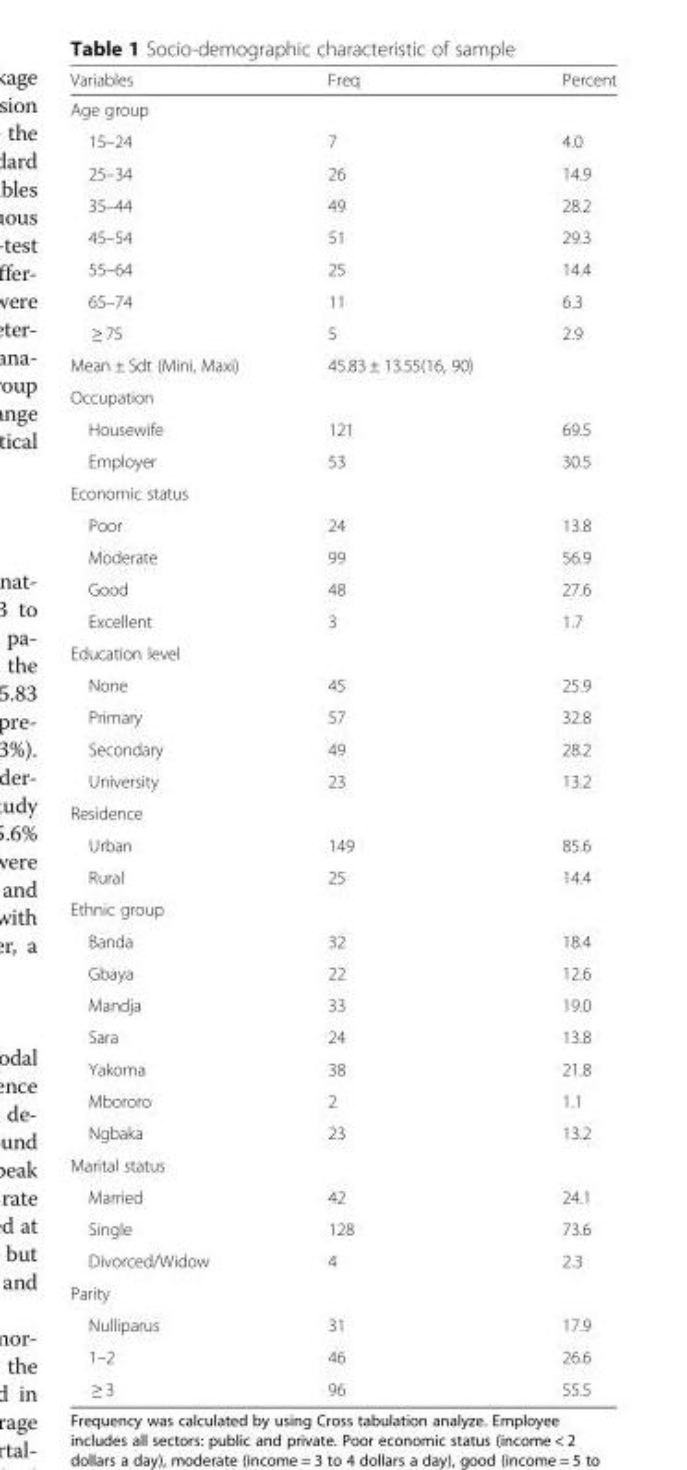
<table><thead><tr><td>Variables</td><td>Freq</td><td>Percent</td></tr></thead><tbody><tr><td colspan="3">Age group</td></tr><tr><td>15–24</td><td>7</td><td>4.0</td></tr><tr><td>25–34</td><td>26</td><td>14.9</td></tr><tr><td>35–44</td><td>49</td><td>28.2</td></tr><tr><td>45–54</td><td>51</td><td>29.3</td></tr><tr><td>55–64</td><td>25</td><td>14.4</td></tr><tr><td>65–74</td><td>11</td><td>6.3</td></tr><tr><td>≥ 75</td><td>5</td><td>2.9</td></tr><tr><td>Mean ± Sdt (Mini, Maxi)</td><td>45.83 ± 13.55(16, 90)</td><td></td></tr><tr><td colspan="3">Occupation</td></tr><tr><td>Housewife</td><td>121</td><td>69.5</td></tr><tr><td>Employer</td><td>53</td><td>30.5</td></tr><tr><td colspan="3">Economic status</td></tr><tr><td>Poor</td><td>24</td><td>13.8</td></tr><tr><td>Moderate</td><td>99</td><td>56.9</td></tr><tr><td>Good</td><td>48</td><td>27.6</td></tr><tr><td>Excellent</td><td>3</td><td>1.7</td></tr><tr><td colspan="3">Education level</td></tr><tr><td>None</td><td>45</td><td>25.9</td></tr><tr><td>Primary</td><td>57</td><td>32.8</td></tr><tr><td>Secondary</td><td>49</td><td>28.2</td></tr><tr><td>University</td><td>23</td><td>13.2</td></tr><tr><td colspan="3">Residence</td></tr><tr><td>Urban</td><td>149</td><td>85.6</td></tr><tr><td>Rural</td><td>25</td><td>14.4</td></tr><tr><td colspan="3">Ethnic group</td></tr><tr><td>Banda</td><td>32</td><td>18.4</td></tr><tr><td>Gbaya</td><td>22</td><td>12.6</td></tr><tr><td>Mandja</td><td>33</td><td>19.0</td></tr><tr><td>Sara</td><td>24</td><td>13.8</td></tr><tr><td>Yakoma</td><td>38</td><td>21.8</td></tr><tr><td>Mbororo</td><td>2</td><td>1.1</td></tr><tr><td>Ngbaka</td><td>23</td><td>13.2</td></tr><tr><td colspan="3">Marital status</td></tr><tr><td>Married</td><td>42</td><td>24.1</td></tr><tr><td>Single</td><td>128</td><td>73.6</td></tr><tr><td>Divorced/Widow</td><td>4</td><td>2.3</td></tr><tr><td colspan="3">Parity</td></tr><tr><td>Nulliparus</td><td>31</td><td>17.9</td></tr><tr><td>1–2</td><td>46</td><td>26.6</td></tr><tr><td>≥ 3</td><td>96</td><td>55.5</td></tr></tbody></table>